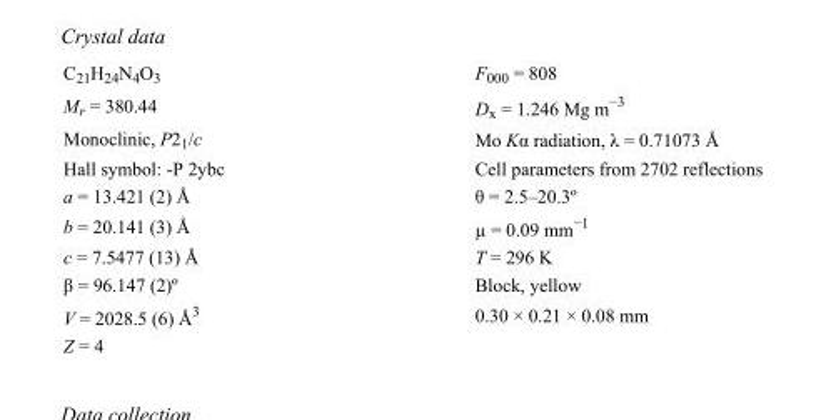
<table><tbody><tr><td>C<sub>21</sub>H<sub>24</sub>N<sub>4</sub>O<sub>3</sub></td><td>F000 = 808</td></tr><tr><td>M<sub>r</sub> = 380.44</td><td>D<sub>x</sub> = 1.246 Mg m<sup>−3</sup></td></tr><tr><td>Monoclinic, P2<sub>1</sub>/c</td><td>Mo Kα radiation, λ = 0.71073 Å</td></tr><tr><td>Hall symbol: -P 2ybc</td><td>Cell parameters from 2702 reflections</td></tr><tr><td>a = 13.421 (2) Å</td><td>θ = 2.5–20.3º</td></tr><tr><td>b = 20.141 (3) Å</td><td>µ = 0.09 mm<sup>−1</sup></td></tr><tr><td>c = 7.5477 (13) Å</td><td>T = 296 K</td></tr><tr><td>β = 96.147 (2)º</td><td>Block, yellow</td></tr><tr><td>V = 2028.5 (6) Å<sup>3</sup></td><td>0.30 × 0.21 × 0.08 mm</td></tr><tr><td>Z = 4</td><td></td></tr></tbody></table>